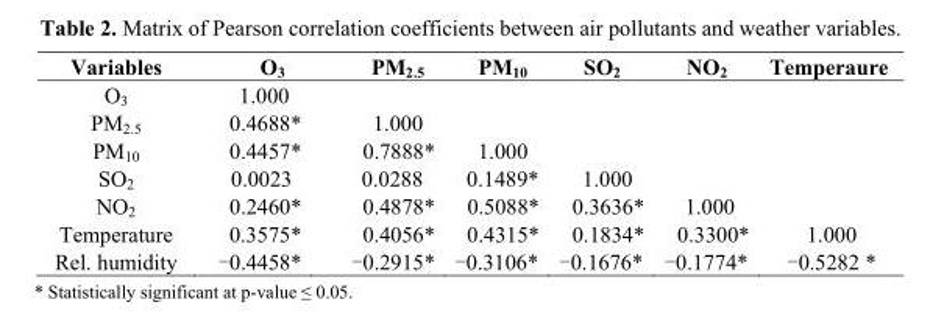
<table><thead><tr><td>Variables</td><td>O<sub>3</sub></td><td>PM<sub>2.5</sub></td><td>PM<sub>10</sub></td><td>SO<sub>2</sub></td><td>NO<sub>2</sub></td><td>Temperaure</td></tr></thead><tbody><tr><td>O<sub>3</sub></td><td>1.000</td><td></td><td></td><td></td><td></td><td></td></tr><tr><td>PM<sub>2.5</sub></td><td>0.4688*</td><td>1.000</td><td></td><td></td><td></td><td></td></tr><tr><td>PM<sub>10</sub></td><td>0.4457*</td><td>0.7888*</td><td>1.000</td><td></td><td></td><td></td></tr><tr><td>SO<sub>2</sub></td><td>0.0023</td><td>0.0288</td><td>0.1489*</td><td>1.000</td><td></td><td></td></tr><tr><td>NO<sub>2</sub></td><td>0.2460*</td><td>0.4878*</td><td>0.5088*</td><td>0.3636*</td><td>1.000</td><td></td></tr><tr><td>Temperature</td><td>0.3575*</td><td>0.4056*</td><td>0.4315*</td><td>0.1834*</td><td>0.3300*</td><td>1.000</td></tr><tr><td>Rel. humidity</td><td>-0.4458*</td><td>-0.2915*</td><td>-0.3106*</td><td>-0.1676*</td><td>-0.1774*</td><td>-0.5282 *</td></tr></tbody></table>